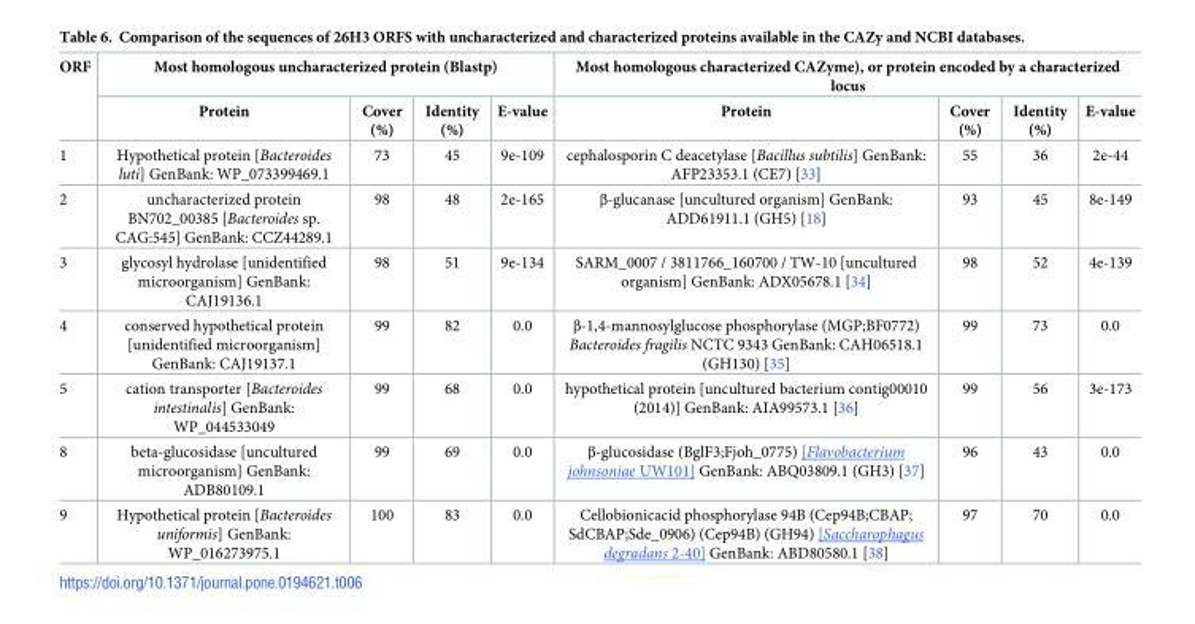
<table><thead><tr><td rowspan="2">ORF</td><td colspan="4">Most homologous uncharacterized protein (Blastp)</td><td colspan="4">Most homologous characterized CAZyme), or protein encoded by a characterized locus</td></tr><tr><td>Protein</td><td>Cover (%)</td><td>Identity (%)</td><td>E-value</td><td>Protein</td><td>Cover (%)</td><td>Identity (%)</td><td>E-value</td></tr></thead><tbody><tr><td>1</td><td>Hypothetical protein [Bacteroides luti] GenBank: WP_073399469.1</td><td>73</td><td>45</td><td>9e-109</td><td>cephalosporin C deacetylase [Bacillus subtilis] GenBank: AFP23353.1 (CE7) [33]</td><td>55</td><td>36</td><td>2e-44</td></tr><tr><td>2</td><td>uncharacterized protein BN702_00385 [Bacteroides sp. CAG:545] GenBank: CCZ44289.1</td><td>98</td><td>48</td><td>2e-165</td><td>β-glucanase [uncultured organism] GenBank: ADD61911.1 (GH5) [18]</td><td>93</td><td>45</td><td>8e-149</td></tr><tr><td>3</td><td>glycosyl hydrolase [unidentified microorganism] GenBank: CAJ19136.1</td><td>98</td><td>51</td><td>9e-134</td><td>SARM_0007 / 3811766_160700 / TW-10 [uncultured organism] GenBank: ADX05678.1 [34]</td><td>98</td><td>52</td><td>4e-139</td></tr><tr><td>4</td><td>conserved hypothetical protein [unidentified microorganism] GenBank: CAJ19137.1</td><td>99</td><td>82</td><td>0.0</td><td>β-1,4-mannosylglucose phosphorylase (MGP;BF0772) Bacteroides fragilis NCTC 9343 GenBank: CAH06518.1 (GH130) [35]</td><td>99</td><td>73</td><td>0.0</td></tr><tr><td>5</td><td>cation transporter [Bacteroides intestinalis] GenBank: WP_044533049</td><td>99</td><td>68</td><td>0.0</td><td>hypothetical protein [uncultured bacterium contig00010 (2014)] GenBank: AIA99573.1 [36]</td><td>99</td><td>56</td><td>3e-173</td></tr><tr><td>8</td><td>beta-glucosidase [uncultured microorganism] GenBank: ADB80109.1</td><td>99</td><td>69</td><td>0.0</td><td>β-glucosidase (BglF3;Fjoh_0775) [Flavobacterium johnsoniae UW101] GenBank: ABQ03809.1 (GH3) [37]</td><td>96</td><td>43</td><td>0.0</td></tr><tr><td>9</td><td>Hypothetical protein [Bacteroides uniformis] GenBank: WP_016273975.1</td><td>100</td><td>83</td><td>0.0</td><td>Cellobionicacid phosphorylase 94B (Cep94B;CBAP; SdCBAP;Sde_0906) (Cep94B) (GH94) [Saccharophagus degradans 2-40] GenBank: ABD80580.1 [38]</td><td>97</td><td>70</td><td>0.0</td></tr></tbody></table>